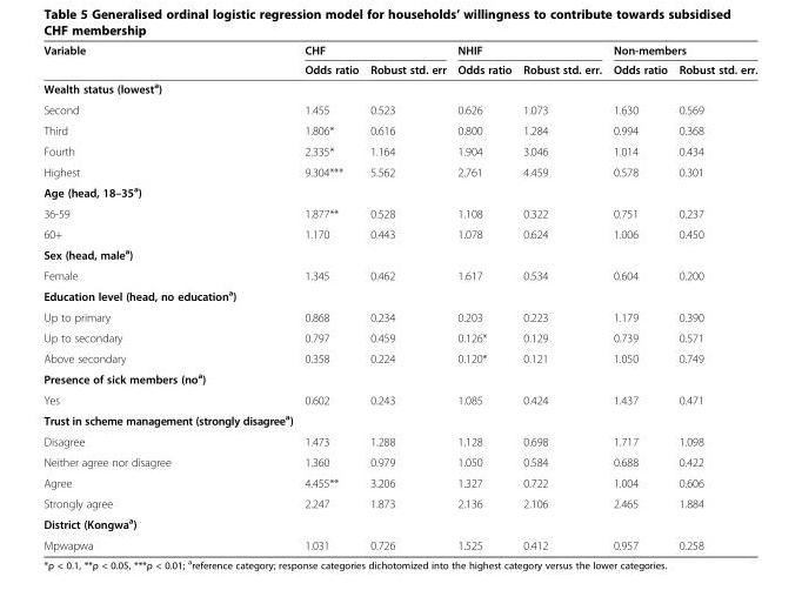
<table><thead><tr><td rowspan="2">Variable</td><td colspan="2">CHF</td><td colspan="2">NHIF</td><td colspan="2">Non-members</td></tr><tr><td>Odds ratio</td><td>Robust std. err</td><td>Odds ratio</td><td>Robust std. err.</td><td>Odds ratio</td><td>Robust std. err.</td></tr></thead><tbody><tr><td colspan="7">Wealth status (lowest<sup>a</sup>)</td></tr><tr><td>Second</td><td>1.455</td><td>0.523</td><td>0.626</td><td>1.073</td><td>1.630</td><td>0.569</td></tr><tr><td>Third</td><td>1.806*</td><td>0.616</td><td>0.800</td><td>1.284</td><td>0.994</td><td>0.368</td></tr><tr><td>Fourth</td><td>2.335*</td><td>1.164</td><td>1.904</td><td>3.046</td><td>1.014</td><td>0.434</td></tr><tr><td>Highest</td><td>9.304***</td><td>5.562</td><td>2.761</td><td>4.459</td><td>0.578</td><td>0.301</td></tr><tr><td colspan="7">Age (head, 18–35<sup>a</sup>)</td></tr><tr><td>36-59</td><td>1.877**</td><td>0.528</td><td>1.108</td><td>0.322</td><td>0.751</td><td>0.237</td></tr><tr><td>60+</td><td>1.170</td><td>0.443</td><td>1.078</td><td>0.624</td><td>1.006</td><td>0.450</td></tr><tr><td colspan="7">Sex (head, male<sup>a</sup>)</td></tr><tr><td>Female</td><td>1.345</td><td>0.462</td><td>1.617</td><td>0.534</td><td>0.604</td><td>0.200</td></tr><tr><td colspan="7">Education level (head, no education<sup>a</sup>)</td></tr><tr><td>Up to primary</td><td>0.868</td><td>0.234</td><td>0.203</td><td>0.223</td><td>1.179</td><td>0.390</td></tr><tr><td>Up to secondary</td><td>0.797</td><td>0.459</td><td>0.126*</td><td>0.129</td><td>0.739</td><td>0.571</td></tr><tr><td>Above secondary</td><td>0.358</td><td>0.224</td><td>0.120*</td><td>0.121</td><td>1.050</td><td>0.749</td></tr><tr><td colspan="7">Presence of sick members (no<sup>a</sup>)</td></tr><tr><td>Yes</td><td>0.602</td><td>0.243</td><td>1.085</td><td>0.424</td><td>1.437</td><td>0.471</td></tr><tr><td colspan="7">Trust in scheme management (strongly disagree<sup>a</sup>)</td></tr><tr><td>Disagree</td><td>1.473</td><td>1.288</td><td>1.128</td><td>0.698</td><td>1.717</td><td>1.098</td></tr><tr><td>Neither agree nor disagree</td><td>1.360</td><td>0.979</td><td>1.050</td><td>0.584</td><td>0.688</td><td>0.422</td></tr><tr><td>Agree</td><td>4.455**</td><td>3.206</td><td>1.327</td><td>0.722</td><td>1.004</td><td>0.606</td></tr><tr><td>Strongly agree</td><td>2.247</td><td>1.873</td><td>2.136</td><td>2.106</td><td>2.465</td><td>1.884</td></tr><tr><td colspan="7">District (Kongwa<sup>a</sup>)</td></tr><tr><td>Mpwapwa</td><td>1.031</td><td>0.726</td><td>1.525</td><td>0.412</td><td>0.957</td><td>0.258</td></tr></tbody></table>